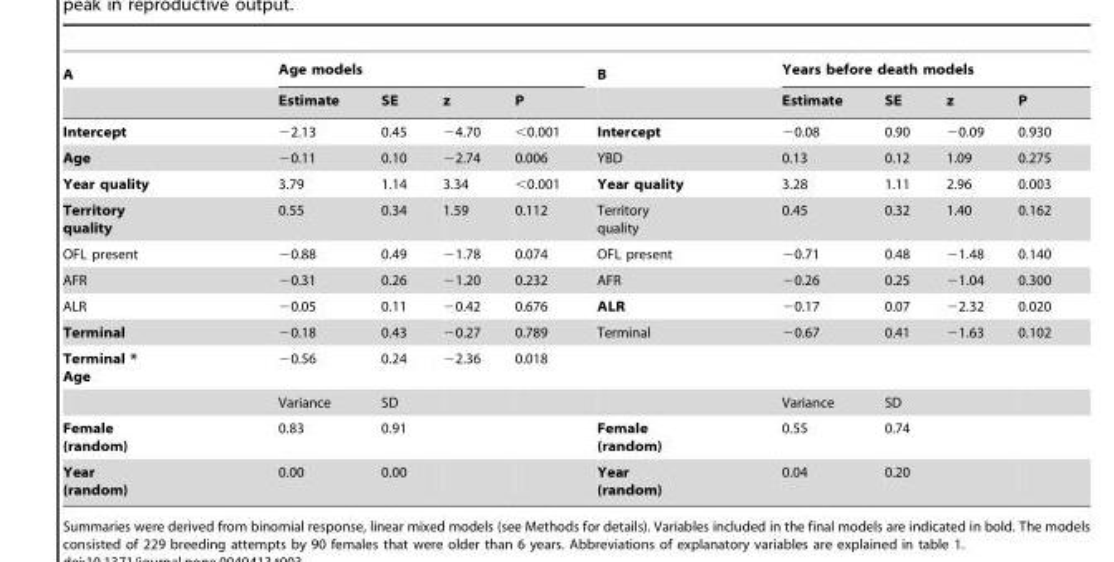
<table><thead><tr><td rowspan="2">A</td><td colspan="4">Age models</td><td rowspan="2">B</td><td colspan="4">Years before death models</td></tr><tr><td>Estimate</td><td>SE</td><td>z</td><td>P</td><td>Estimate</td><td>SE</td><td>z</td><td>P</td></tr></thead><tbody><tr><td>Intercept</td><td>−2.13</td><td>0.45</td><td>−4.70</td><td>&lt;0.001</td><td>Intercept</td><td>−0.08</td><td>0.90</td><td>−0.09</td><td>0.930</td></tr><tr><td>Age</td><td>−0.11</td><td>0.10</td><td>−2.74</td><td>0.006</td><td>YBD</td><td>0.13</td><td>0.12</td><td>1.09</td><td>0.275</td></tr><tr><td>Year quality</td><td>3.79</td><td>1.14</td><td>3.34</td><td>&lt;0.001</td><td>Year quality</td><td>3.28</td><td>1.11</td><td>2.96</td><td>0.003</td></tr><tr><td>Territory quality</td><td>0.55</td><td>0.34</td><td>1.59</td><td>0.112</td><td>Territory quality</td><td>0.45</td><td>0.32</td><td>1.40</td><td>0.162</td></tr><tr><td>OFL present</td><td>−0.88</td><td>0.49</td><td>−1.78</td><td>0.074</td><td>OFL present</td><td>−0.71</td><td>0.48</td><td>−1.48</td><td>0.140</td></tr><tr><td>AFR</td><td>−0.31</td><td>0.26</td><td>−1.20</td><td>0.232</td><td>AFR</td><td>−0.26</td><td>0.25</td><td>−1.04</td><td>0.300</td></tr><tr><td>ALR</td><td>−0.05</td><td>0.11</td><td>−0.42</td><td>0.676</td><td>ALR</td><td>−0.17</td><td>0.07</td><td>−2.32</td><td>0.020</td></tr><tr><td>Terminal</td><td>−0.18</td><td>0.43</td><td>−0.27</td><td>0.789</td><td>Terminal</td><td>−0.67</td><td>0.41</td><td>−1.63</td><td>0.102</td></tr><tr><td rowspan="2">Terminal * Age</td><td>−0.56</td><td>0.24</td><td>−2.36</td><td>0.018</td><td></td><td></td><td></td><td></td><td></td></tr><tr><td>Variance</td><td>SD</td><td></td><td></td><td></td><td>Variance</td><td>SD</td><td></td><td></td></tr><tr><td>Female (random)</td><td>0.83</td><td>0.91</td><td></td><td></td><td>Female (random)</td><td>0.55</td><td>0.74</td><td></td><td></td></tr><tr><td>Year (random)</td><td>0.00</td><td>0.00</td><td></td><td></td><td>Year (random)</td><td>0.04</td><td>0.20</td><td></td><td></td></tr></tbody></table>